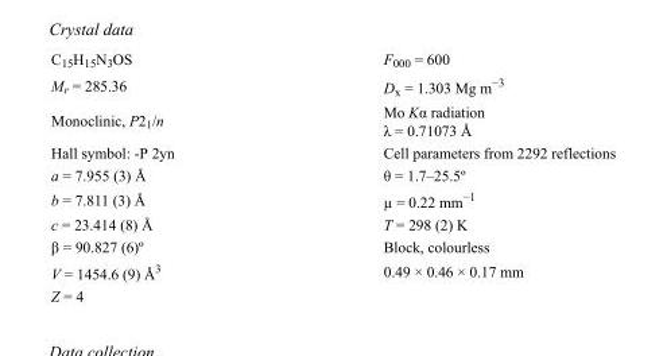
<table><tbody><tr><td>C<sub>15</sub>H<sub>15</sub>N<sub>3</sub>OS</td><td>F<sub>000</sub> = 600</td></tr><tr><td>M<sub>r</sub> = 285.36</td><td>D<sub>x</sub> = 1.303 Mg m<sup>−3</sup></td></tr><tr><td>Monoclinic, P2<sub>1</sub>/n</td><td>Mo Kα radiation λ = 0.71073 Å</td></tr><tr><td>Hall symbol: -P 2yn</td><td>Cell parameters from 2292 reflections</td></tr><tr><td>a = 7.955 (3) Å</td><td>θ = 1.7–25.5º</td></tr><tr><td>b = 7.811 (3) Å</td><td>µ = 0.22 mm<sup>−1</sup></td></tr><tr><td>c = 23.414 (8) Å</td><td>T = 298 (2) K</td></tr><tr><td>β = 90.827 (6)º</td><td>Block, colourless</td></tr><tr><td>V = 1454.6 (9) Å<sup>3</sup></td><td>0.49 × 0.46 × 0.17 mm</td></tr><tr><td>Z = 4</td><td></td></tr></tbody></table>